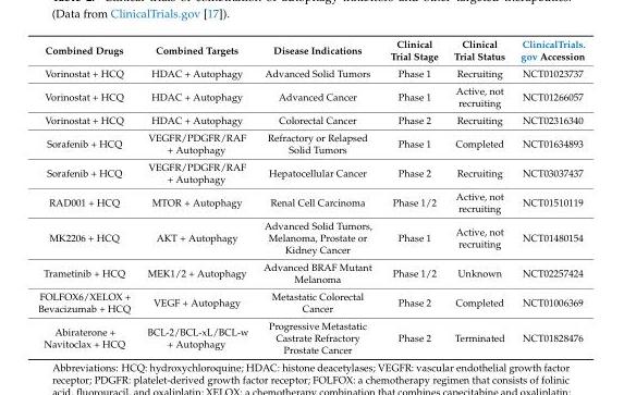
<table><thead><tr><td>Combined Drugs</td><td>Combined Targets</td><td>Disease Indications</td><td>Clinical Trial Stage</td><td>Clinical Trial Status</td><td>ClinicalTrials. gov Accession</td></tr></thead><tbody><tr><td>Vorinostat + HCQ</td><td>HDAC + Autophagy</td><td>Advanced Solid Tumors</td><td>Phase 1</td><td>Recruiting</td><td>NCT01023737</td></tr><tr><td>Vorinostat + HCQ</td><td>HDAC + Autophagy</td><td>Advanced Cancer</td><td>Phase 1</td><td>Active, not recruiting</td><td>NCT01266057</td></tr><tr><td>Vorinostat + HCQ</td><td>HDAC + Autophagy</td><td>Colorectal Cancer</td><td>Phase 2</td><td>Recruiting</td><td>NCT02316340</td></tr><tr><td>Sorafenib + HCQ</td><td>VEGFR/PDGFR/RAF + Autophagy</td><td>Refractory or Relapsed Solid Tumors</td><td>Phase 1</td><td>Completed</td><td>NCT01634893</td></tr><tr><td>Sorafenib + HCQ</td><td>VEGFR/PDGFR/RAF + Autophagy</td><td>Hepatocellular Cancer</td><td>Phase 2</td><td>Recruiting</td><td>NCT03037437</td></tr><tr><td>RAD001 + HCQ</td><td>MTOR + Autophagy</td><td>Renal Cell Carcinoma</td><td>Phase 1/2</td><td>Active, not recruiting</td><td>NCT01510119</td></tr><tr><td>MK2206 + HCQ</td><td>AKT + Autophagy</td><td>Advanced Solid Tumors, Melanoma, Prostate or Kidney Cancer</td><td>Phase 1</td><td>Active, not recruiting</td><td>NCT01480154</td></tr><tr><td>Trametinib + HCQ</td><td>MEK1/2 + Autophagy</td><td>Advanced BRAF Mutant Melanoma</td><td>Phase 1/2</td><td>Unknown</td><td>NCT02257424</td></tr><tr><td>FOLFOX6/XELOX + Bevacizumab + HCQ</td><td>VEGF + Autophagy</td><td>Metastatic Colorectal Cancer</td><td>Phase 2</td><td>Completed</td><td>NCT01006369</td></tr><tr><td>Abiraterone + Navitoclax + HCQ</td><td>BCL-2/BCL-xL/BCL-w + Autophagy</td><td>Progressive Metastatic Castrate Refractory Prostate Cancer</td><td>Phase 2</td><td>Terminated</td><td>NCT01828476</td></tr></tbody></table>